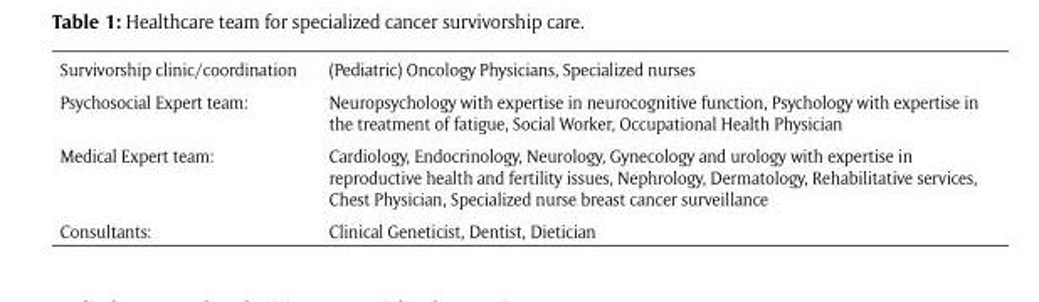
<table><tbody><tr><td>Survivorship clinic/coordination</td><td>(Pediatric) Oncology Physicians, Specialized nurses</td></tr><tr><td>Psychosocial Expert team:</td><td>Neuropsychology with expertise in neurocognitive function, Psychology with expertise in the treatment of fatigue, Social Worker, Occupational Health Physician</td></tr><tr><td>Medical Expert team:</td><td>Cardiology, Endocrinology, Neurology, Gynecology and urology with expertise in reproductive health and fertility issues, Nephrology, Dermatology, Rehabilitative services, Chest Physician, Specialized nurse breast cancer surveillance</td></tr><tr><td>Consultants:</td><td>Clinical Geneticist, Dentist, Dietician</td></tr></tbody></table>